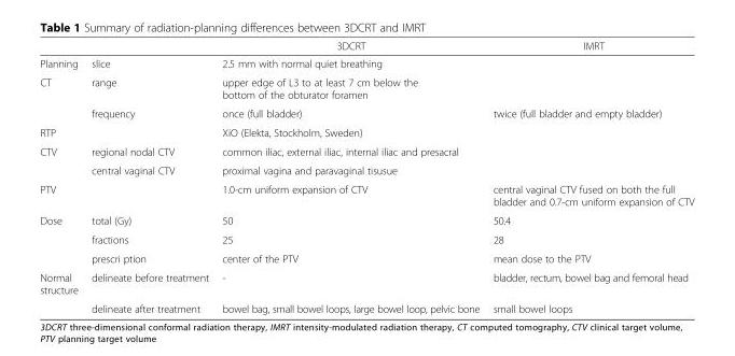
<table><thead><tr><td></td><td></td><td>3DCRT</td><td>IMRT</td></tr></thead><tbody><tr><td>Planning</td><td>slice</td><td>2.5 mm with normal quiet breathing</td><td></td></tr><tr><td rowspan="2">CT</td><td>range</td><td>upper edge of L3 to at least 7 cm below the bottom of the obturator foramen</td><td></td></tr><tr><td>frequency</td><td>once (full bladder)</td><td>twice (full bladder and empty bladder)</td></tr><tr><td>RTP</td><td></td><td>XiO (Elekta, Stockholm, Sweden)</td><td></td></tr><tr><td rowspan="2">CTV</td><td>regional nodal CTV</td><td>common iliac, external iliac, internal iliac and presacral</td><td></td></tr><tr><td>central vaginal CTV</td><td>proximal vagina and paravaginal tisusue</td><td></td></tr><tr><td>PTV</td><td></td><td>1.0-cm uniform expansion of CTV</td><td>central vaginal CTV fused on both the full bladder and 0.7-cm uniform expansion of CTV</td></tr><tr><td rowspan="3">Dose</td><td>total (Gy)</td><td>50</td><td>50.4</td></tr><tr><td>fractions</td><td>25</td><td>28</td></tr><tr><td>prescri ption</td><td>center of the PTV</td><td>mean dose to the PTV</td></tr><tr><td rowspan="2">Normal structure</td><td>delineate before treatment</td><td>-</td><td>bladder, rectum, bowel bag and femoral head</td></tr><tr><td>delineate after treatment</td><td>bowel bag, small bowel loops, large bowel loop, pelvic bone</td><td>small bowel loops</td></tr></tbody></table>